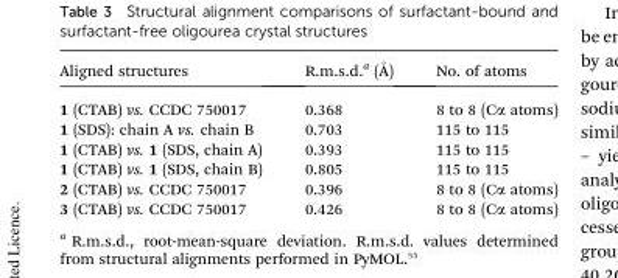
<table><thead><tr><td>Aligned structures</td><td>R.m.s.d.a (˚A)</td><td>No. of atoms</td></tr></thead><tbody><tr><td>1 (CTAB) vs. CCDC 750017</td><td>0.368</td><td>8 to 8 (Cα atoms)</td></tr><tr><td>1 (SDS): chain A vs. chain B</td><td>0.703</td><td>115 to 115</td></tr><tr><td>1 (CTAB) vs. 1 (SDS, chain A)</td><td>0.393</td><td>115 to 115</td></tr><tr><td>1 (CTAB) vs. 1 (SDS, chain B)</td><td>0.805</td><td>115 to 115</td></tr><tr><td>2 (CTAB) vs. CCDC 750017</td><td>0.396</td><td>8 to 8 (Cα atoms)</td></tr><tr><td>3 (CTAB) vs. CCDC 750017</td><td>0.426</td><td>8 to 8 (Cα atoms)</td></tr></tbody></table>